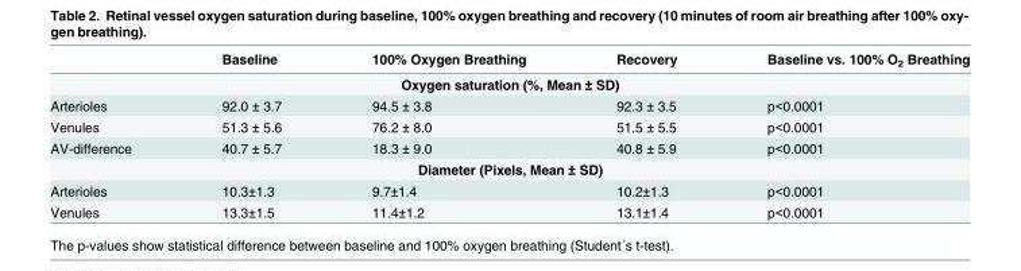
<table><thead><tr><td></td><td>Baseline</td><td>100% Oxygen Breathing</td><td>Recovery</td><td>Baseline vs. 100% O<sub>2</sub> Breathing</td></tr></thead><tbody><tr><td colspan="5">Oxygen saturation (%, Mean ± SD)</td></tr><tr><td>Arterioles</td><td>92.0 ± 3.7</td><td>94.5 ± 3.8</td><td>92.3 ± 3.5</td><td>p&lt;0.0001</td></tr><tr><td>Venules</td><td>51.3 ± 5.6</td><td>76.2 ± 8.0</td><td>51.5 ± 5.5</td><td>p&lt;0.0001</td></tr><tr><td>AV-difference</td><td>40.7 ± 5.7</td><td>18.3 ± 9.0</td><td>40.8 ± 5.9</td><td>p&lt;0.0001</td></tr><tr><td colspan="5">Diameter (Pixels, Mean ± SD)</td></tr><tr><td>Arterioles</td><td>10.3±1.3</td><td>9.7±1.4</td><td>10.2±1.3</td><td>p&lt;0.0001</td></tr><tr><td>Venules</td><td>13.3±1.5</td><td>11.4±1.2</td><td>13.1±1.4</td><td>p&lt;0.0001</td></tr></tbody></table>